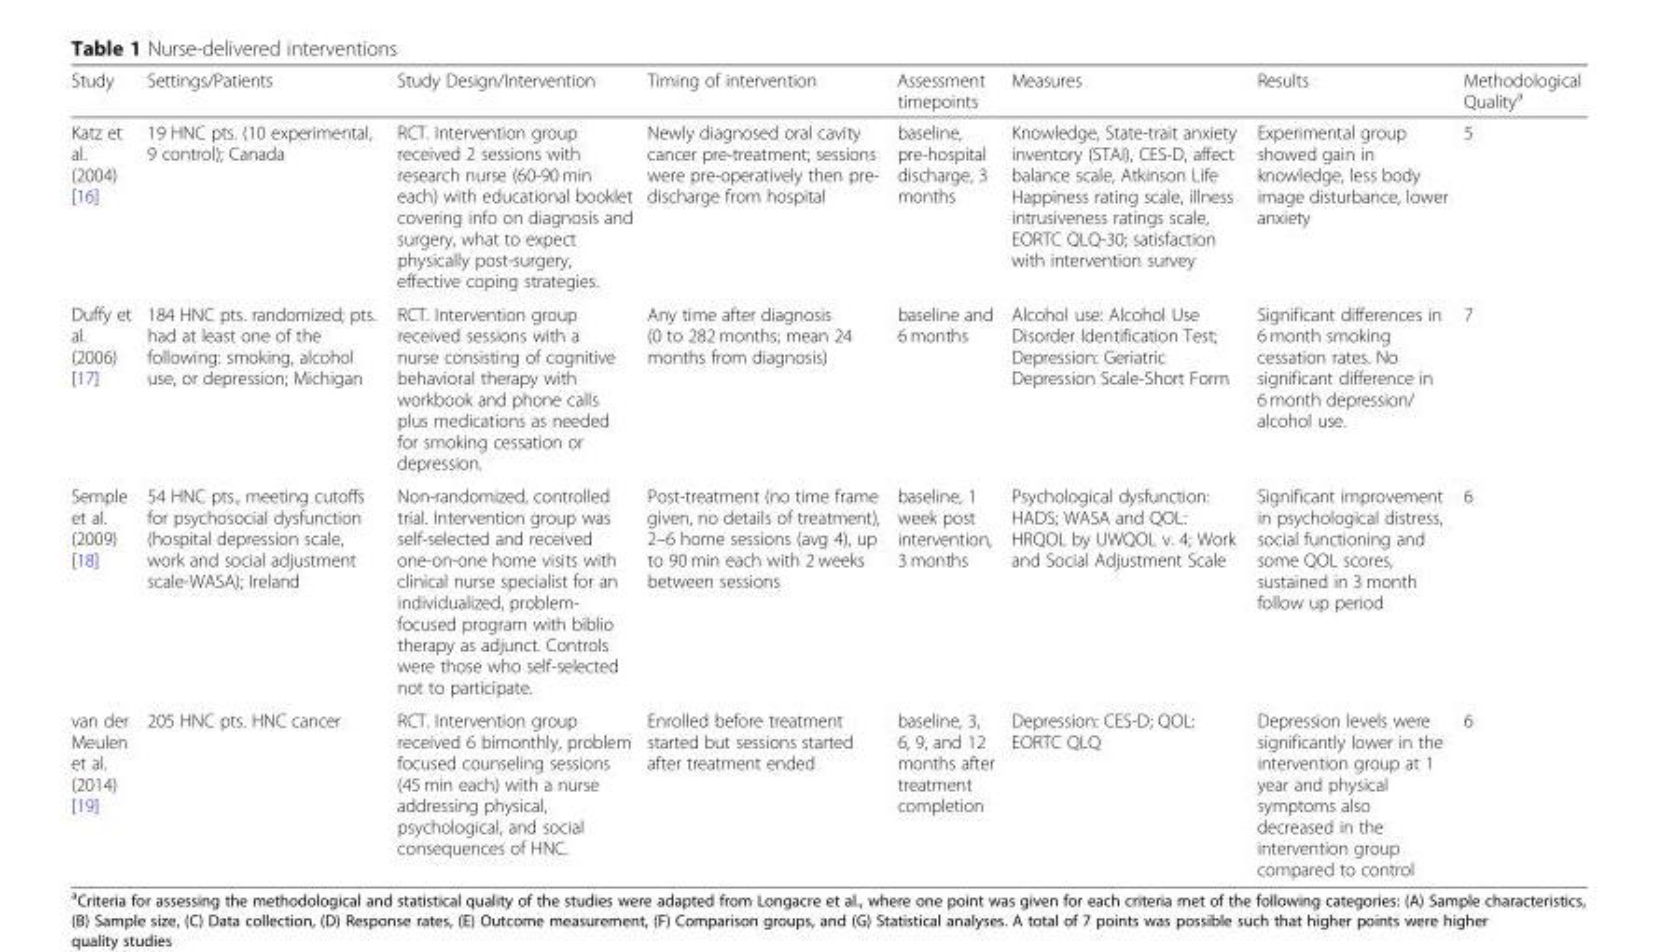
<table><thead><tr><td>Study</td><td>Settings/Patients</td><td>Study Design/Intervention</td><td>Timing of intervention</td><td>Assessment timepoints</td><td>Measures</td><td>Results</td><td>Methodological Quality<sup>a</sup></td></tr></thead><tbody><tr><td>Katz et al. (2004) [16]</td><td>19 HNC pts. (10 experimental, 9 control); Canada</td><td>RCT. Intervention group received 2 sessions with research nurse (60-90 min each) with educational booklet covering info on diagnosis and surgery, what to expect physically post-surgery, effective coping strategies.</td><td>Newly diagnosed oral cavity cancer pre-treatment; sessions were pre-operatively then pre- discharge from hospital</td><td>baseline, pre-hospital discharge, 3 months</td><td>Knowledge, State-trait anxiety inventory (STAI), CES-D, affect balance scale, Atkinson Life Happiness rating scale, illness intrusiveness ratings scale, EORTC QLQ-30; satisfaction with intervention survey</td><td>Experimental group showed gain in knowledge, less body image disturbance, lower anxiety</td><td>5</td></tr><tr><td>Duffy et al. (2006) [17]</td><td>184 HNC pts. randomized; pts. had at least one of the following: smoking, alcohol use, or depression; Michigan</td><td>RCT. Intervention group received sessions with a nurse consisting of cognitive behavioral therapy with workbook and phone calls plus medications as needed for smoking cessation or depression.</td><td>Any time after diagnosis (0 to 282 months; mean 24 months from diagnosis)</td><td>baseline and 6 months</td><td>Alcohol use: Alcohol Use Disorder Identification Test; Depression: Geriatric Depression Scale-Short Form</td><td>Significant differences in 6 month smoking cessation rates. No significant difference in 6 month depression/ alcohol use.</td><td>7</td></tr><tr><td>Semple et al. (2009) [18]</td><td>54 HNC pts., meeting cutoffs for psychosocial dysfunction (hospital depression scale, work and social adjustment scale-WASA); Ireland</td><td>Non-randomized, controlled trial. Intervention group was self-selected and received one-on-one home visits with clinical nurse specialist for an individualized, problem- focused program with biblio therapy as adjunct. Controls were those who self-selected not to participate.</td><td>Post-treatment (no time frame given, no details of treatment), 2–6 home sessions (avg 4), up to 90 min each with 2 weeks between sessions</td><td>baseline, 1 week post intervention, 3 months</td><td>Psychological dysfunction: HADS; WASA and QOL: HRQOL by UWQOL v. 4; Work and Social Adjustment Scale</td><td>Significant improvement in psychological distress, social functioning and some QOL scores, sustained in 3 month follow up period</td><td>6</td></tr><tr><td>van der Meulen et al. (2014) [19]</td><td>205 HNC pts. HNC cancer</td><td>RCT. Intervention group received 6 bimonthly, problem focused counseling sessions (45 min each) with a nurse addressing physical, psychological, and social consequences of HNC.</td><td>Enrolled before treatment started but sessions started after treatment ended</td><td>baseline, 3, 6, 9, and 12 months after treatment completion</td><td>Depression: CES-D; QOL: EORTC QLQ</td><td>Depression levels were significantly lower in the intervention group at 1 year and physical symptoms also decreased in the intervention group compared to control</td><td>6</td></tr></tbody></table>